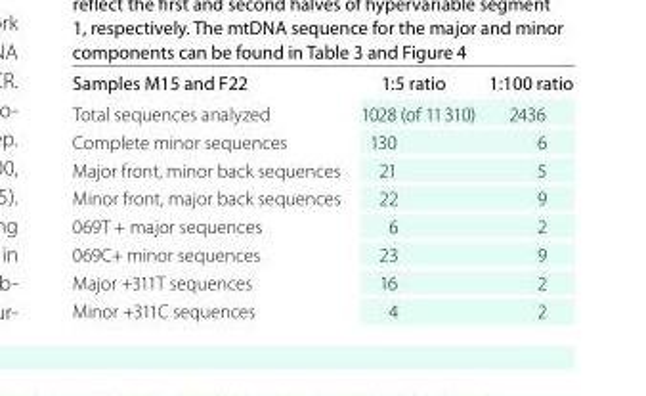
<table><thead><tr><td>samples M15 and F22</td><td>1:5 ratio</td><td>1:100 ratio</td></tr></thead><tbody><tr><td>Total sequences analyzed</td><td>1028 (of 11 310)</td><td>2436</td></tr><tr><td>Complete minor sequences</td><td>130</td><td>6</td></tr><tr><td>Major front, minor back sequences</td><td>21</td><td>5</td></tr><tr><td>Minor front, major back sequences</td><td>22</td><td>9</td></tr><tr><td>069T + major sequences</td><td>6</td><td>2</td></tr><tr><td>069C+ minor sequences</td><td>23</td><td>9</td></tr><tr><td>Major +311T sequences</td><td>16</td><td>2</td></tr><tr><td>Minor +311C sequences</td><td>4</td><td>2</td></tr></tbody></table>